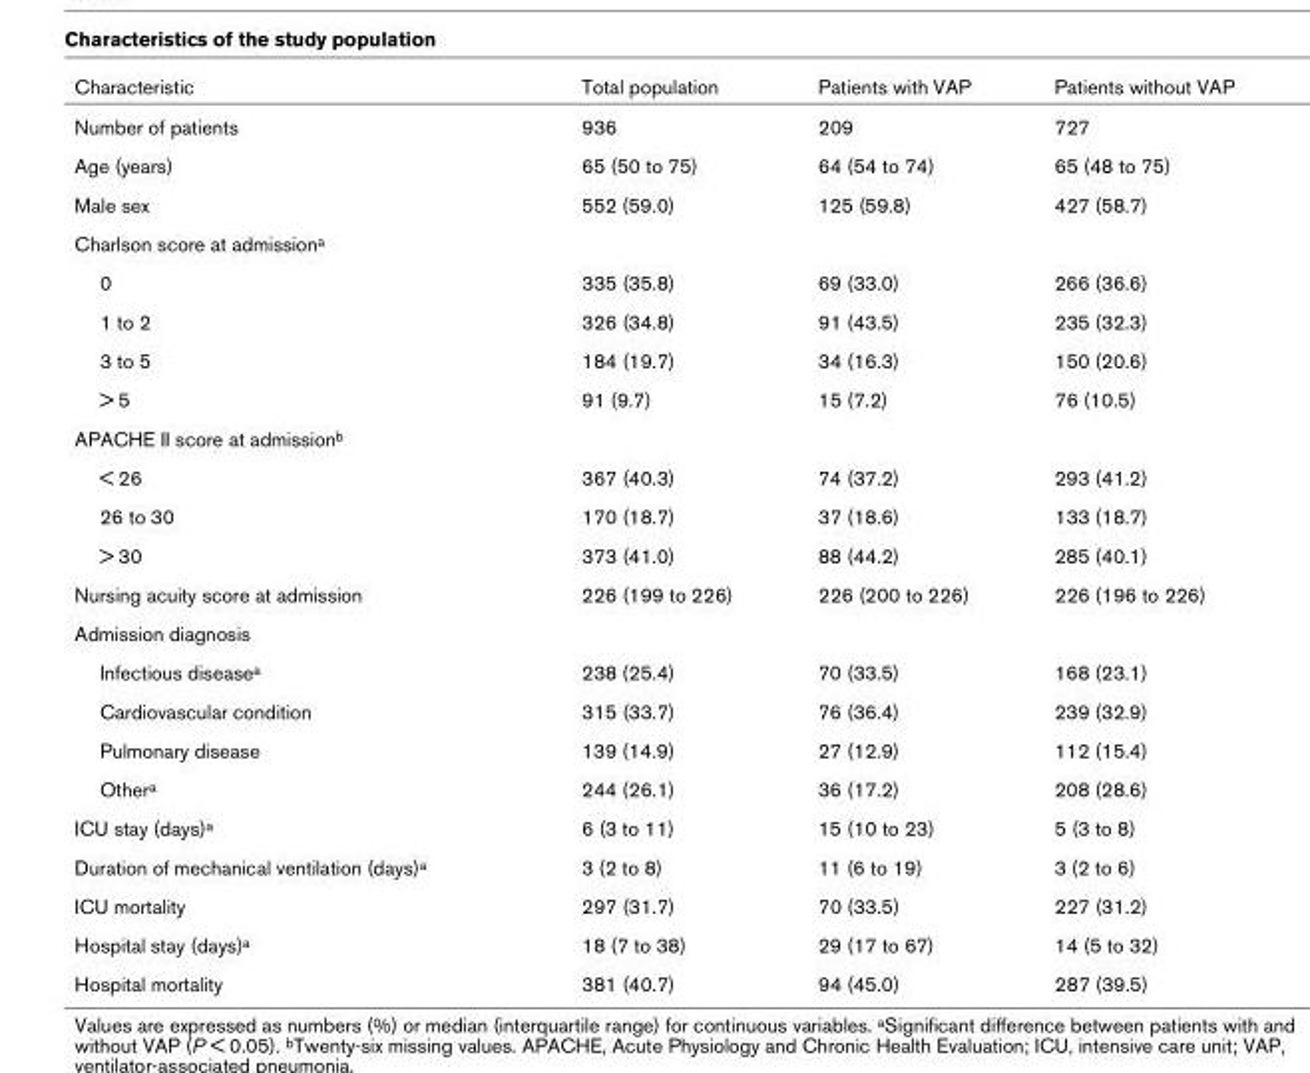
<table><thead><tr><td>Characteristic</td><td>Total population</td><td>Patients with VAP</td><td>Patients without VAP</td></tr></thead><tbody><tr><td>Number of patients</td><td>936</td><td>209</td><td>727</td></tr><tr><td>Age (years)</td><td>65 (50 to 75)</td><td>64 (54 to 74)</td><td>65 (48 to 75)</td></tr><tr><td>Male sex</td><td>552 (59.0)</td><td>125 (59.8)</td><td>427 (58.7)</td></tr><tr><td colspan="4">Charlson score at admission<sup>a</sup></td></tr><tr><td>0</td><td>335 (35.8)</td><td>69 (33.0)</td><td>266 (36.6)</td></tr><tr><td>1 to 2</td><td>326 (34.8)</td><td>91 (43.5)</td><td>235 (32.3)</td></tr><tr><td>3 to 5</td><td>184 (19.7)</td><td>34 (16.3)</td><td>150 (20.6)</td></tr><tr><td>&gt; 5</td><td>91 (9.7)</td><td>15 (7.2)</td><td>76 (10.5)</td></tr><tr><td colspan="4">APACHE II score at admission<sup>b</sup></td></tr><tr><td>&lt; 26</td><td>367 (40.3)</td><td>74 (37.2)</td><td>293 (41.2)</td></tr><tr><td>26 to 30</td><td>170 (18.7)</td><td>37 (18.6)</td><td>133 (18.7)</td></tr><tr><td>&gt; 30</td><td>373 (41.0)</td><td>88 (44.2)</td><td>285 (40.1)</td></tr><tr><td>Nursing acuity score at admission</td><td>226 (199 to 226)</td><td>226 (200 to 226)</td><td>226 (196 to 226)</td></tr><tr><td colspan="4">Admission diagnosis</td></tr><tr><td>Infectious disease<sup>a</sup></td><td>238 (25.4)</td><td>70 (33.5)</td><td>168 (23.1)</td></tr><tr><td>Cardiovascular condition</td><td>315 (33.7)</td><td>76 (36.4)</td><td>239 (32.9)</td></tr><tr><td>Pulmonary disease</td><td>139 (14.9)</td><td>27 (12.9)</td><td>112 (15.4)</td></tr><tr><td>Other<sup>a</sup></td><td>244 (26.1)</td><td>36 (17.2)</td><td>208 (28.6)</td></tr><tr><td>ICU stay (days)<sup>a</sup></td><td>6 (3 to 11)</td><td>15 (10 to 23)</td><td>5 (3 to 8)</td></tr><tr><td>Duration of mechanical ventilation (days)<sup>a</sup></td><td>3 (2 to 8)</td><td>11 (6 to 19)</td><td>3 (2 to 6)</td></tr><tr><td>ICU mortality</td><td>297 (31.7)</td><td>70 (33.5)</td><td>227 (31.2)</td></tr><tr><td>Hospital stay (days)<sup>a</sup></td><td>18 (7 to 38)</td><td>29 (17 to 67)</td><td>14 (5 to 32)</td></tr><tr><td>Hospital mortality</td><td>381 (40.7)</td><td>94 (45.0)</td><td>287 (39.5)</td></tr></tbody></table>